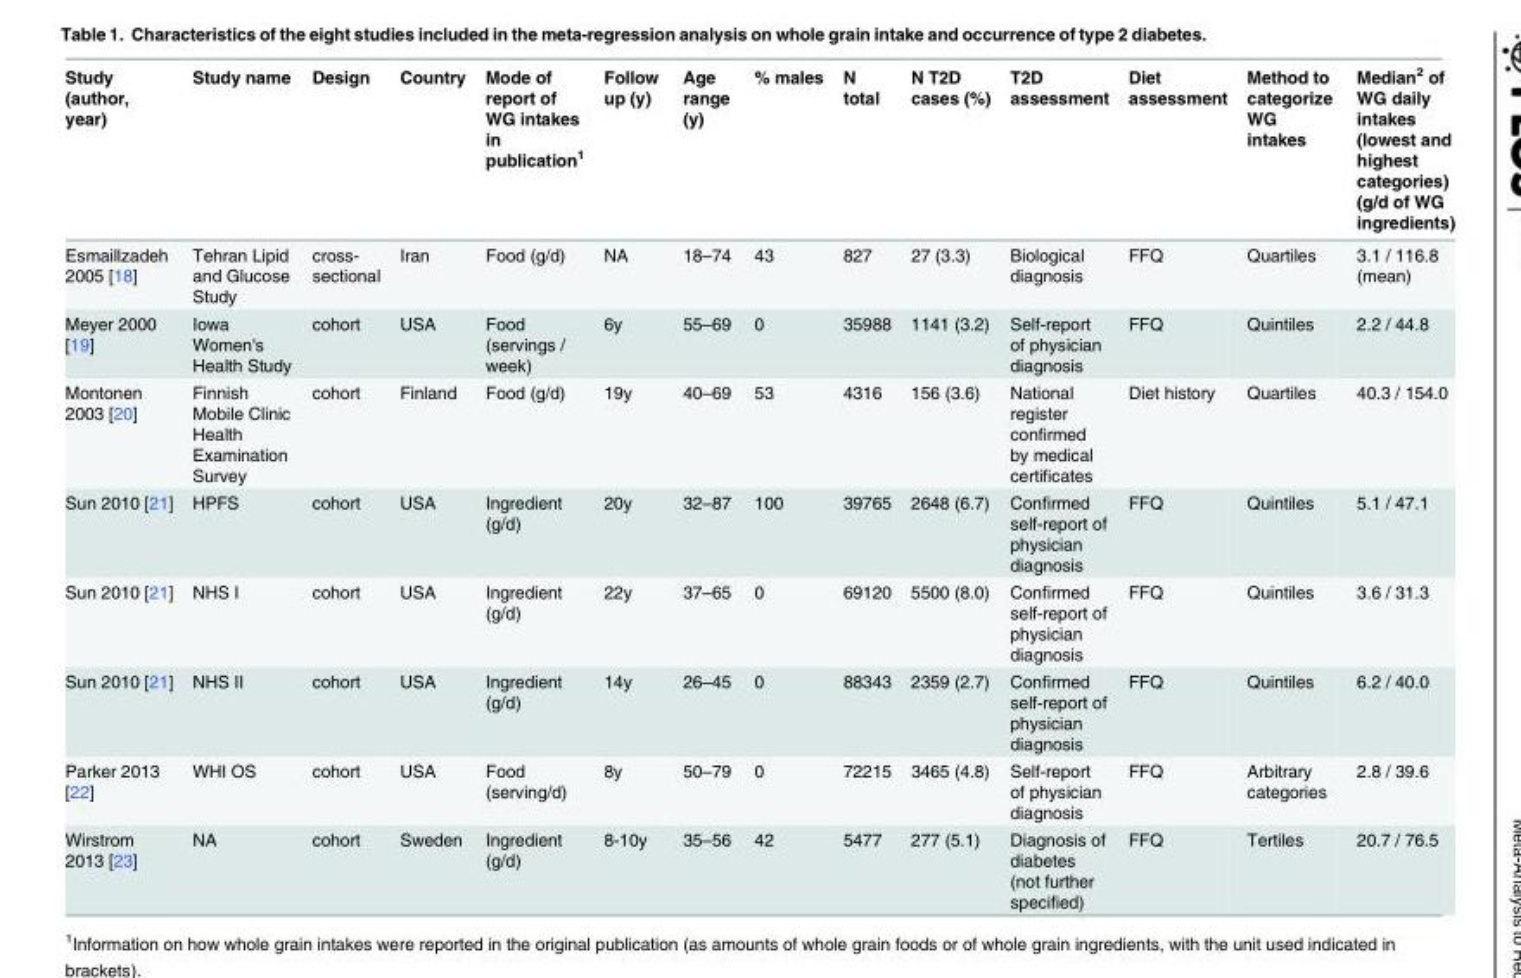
<table><thead><tr><td>Study (author, year)</td><td>Study name</td><td>Design</td><td>Country</td><td>Mode of report of WG intakes in publication<sup>1</sup></td><td>Follow up (y)</td><td>Age range (y)</td><td>% males</td><td>N total</td><td>N T2D cases (%)</td><td>T2D assessment</td><td>Diet assessment</td><td>Method to categorize WG intakes</td><td>Median<sup>2</sup> of WG daily intakes (lowest and highest categories) (g/d of WG ingredients)</td></tr></thead><tbody><tr><td>Esmaillzadeh 2005 [18]</td><td>Tehran Lipid and Glucose Study</td><td>cross- sectional</td><td>Iran</td><td>Food (g/d)</td><td>NA</td><td>18–74</td><td>43</td><td>827</td><td>27 (3.3)</td><td>Biological diagnosis</td><td>FFQ</td><td>Quartiles</td><td>3.1 / 116.8 (mean)</td></tr><tr><td>Meyer 2000 [19]</td><td>Iowa Women&#x27;s Health Study</td><td>cohort</td><td>USA</td><td>Food (servings / week)</td><td>6y</td><td>55–69</td><td>0</td><td>35988</td><td>1141 (3.2)</td><td>Self-report of physician diagnosis</td><td>FFQ</td><td>Quintiles</td><td>2.2 / 44.8</td></tr><tr><td>Montonen 2003 [20]</td><td>Finnish Mobile Clinic Health Examination Survey</td><td>cohort</td><td>Finland</td><td>Food (g/d)</td><td>19y</td><td>40–69</td><td>53</td><td>4316</td><td>156 (3.6)</td><td>National register confirmed by medical certificates</td><td>Diet history</td><td>Quartiles</td><td>40.3 / 154.0</td></tr><tr><td>Sun 2010 [21]</td><td>HPFS</td><td>cohort</td><td>USA</td><td>Ingredient (g/d)</td><td>20y</td><td>32–87</td><td>100</td><td>39765</td><td>2648 (6.7)</td><td>Confirmed self-report of physician diagnosis</td><td>FFQ</td><td>Quintiles</td><td>5.1 / 47.1</td></tr><tr><td>Sun 2010 [21]</td><td>NHS I</td><td>cohort</td><td>USA</td><td>Ingredient (g/d)</td><td>22y</td><td>37–65</td><td>0</td><td>69120</td><td>5500 (8.0)</td><td>Confirmed self-report of physician diagnosis</td><td>FFQ</td><td>Quintiles</td><td>3.6 / 31.3</td></tr><tr><td>Sun 2010 [21]</td><td>NHS II</td><td>cohort</td><td>USA</td><td>Ingredient (g/d)</td><td>14y</td><td>26–45</td><td>0</td><td>88343</td><td>2359 (2.7)</td><td>Confirmed self-report of physician diagnosis</td><td>FFQ</td><td>Quintiles</td><td>6.2 / 40.0</td></tr><tr><td>Parker 2013 [22]</td><td>WHI OS</td><td>cohort</td><td>USA</td><td>Food (serving/d)</td><td>8y</td><td>50–79</td><td>0</td><td>72215</td><td>3465 (4.8)</td><td>Self-report of physician diagnosis</td><td>FFQ</td><td>Arbitrary categories</td><td>2.8 / 39.6</td></tr><tr><td>Wirstrom 2013 [23]</td><td>NA</td><td>cohort</td><td>Sweden</td><td>Ingredient (g/d)</td><td>8-10y</td><td>35–56</td><td>42</td><td>5477</td><td>277 (5.1)</td><td>Diagnosis of diabetes (not further specified)</td><td>FFQ</td><td>Tertiles</td><td>20.7 / 76.5</td></tr></tbody></table>